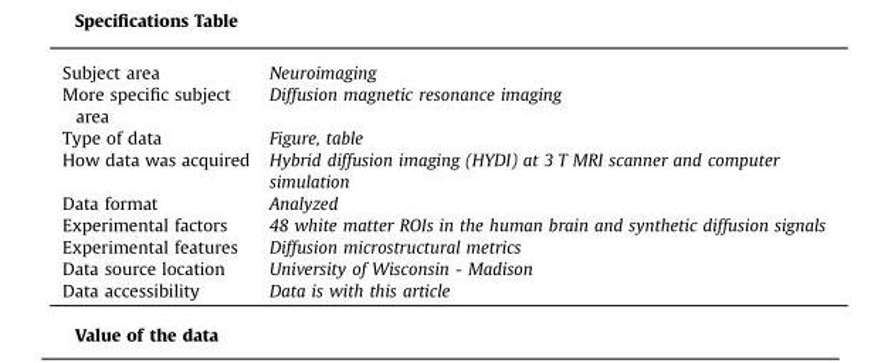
<table><tbody><tr><td>Subject area</td><td>Neuroimaging</td></tr><tr><td>More specific subject area</td><td>Diffusion magnetic resonance imaging</td></tr><tr><td>Type of data</td><td>Figure, table</td></tr><tr><td>How data was acquired</td><td>Hybrid diffusion imaging (HYDI) at 3 T MRI scanner and computer simulation</td></tr><tr><td>Data format</td><td>Analyzed</td></tr><tr><td>Experimental factors</td><td>48 white matter ROIs in the human brain and synthetic diffusion signals</td></tr><tr><td>Experimental features</td><td>Diffusion microstructural metrics</td></tr><tr><td>Data source location</td><td>University of Wisconsin - Madison</td></tr><tr><td>Data accessibility</td><td>Data is with this article</td></tr></tbody></table>